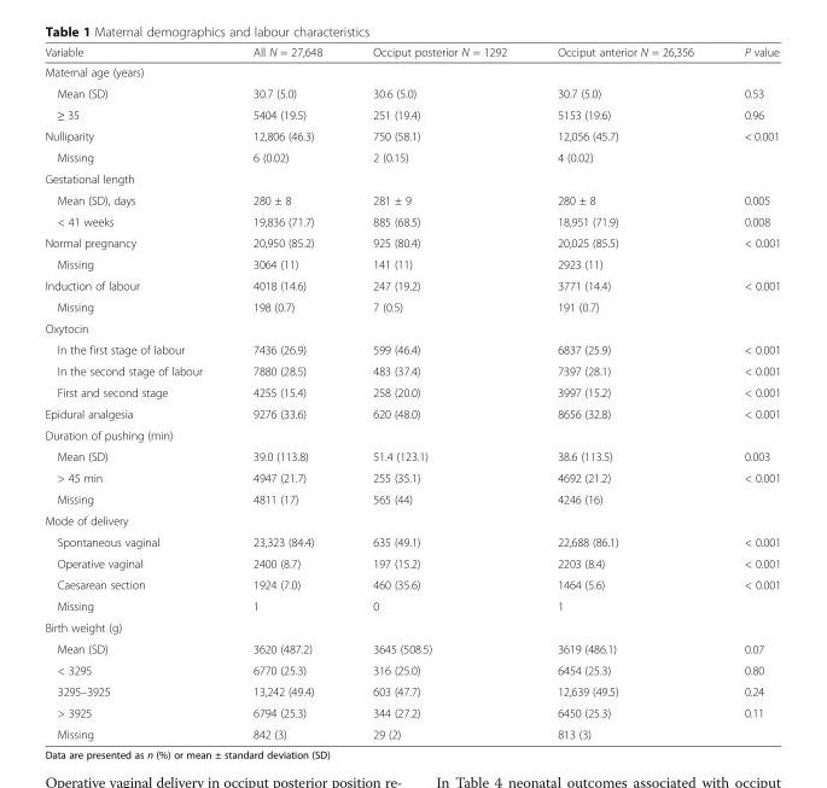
<table><thead><tr><td>Variable</td><td>All N = 27,648</td><td>Occiput posterior N = 1292</td><td>Occiput anterior N = 26,356</td><td>P value</td></tr></thead><tbody><tr><td colspan="5">Maternal age (years)</td></tr><tr><td>Mean (SD)</td><td>30.7 (5.0)</td><td>30.6 (5.0)</td><td>30.7 (5.0)</td><td>0.53</td></tr><tr><td>≥ 35</td><td>5404 (19.5)</td><td>251 (19.4)</td><td>5153 (19.6)</td><td>0.96</td></tr><tr><td>Nulliparity</td><td>12,806 (46.3)</td><td>750 (58.1)</td><td>12,056 (45.7)</td><td>&lt; 0.001</td></tr><tr><td>Missing</td><td>6 (0.02)</td><td>2 (0.15)</td><td>4 (0.02)</td><td></td></tr><tr><td colspan="5">Gestational length</td></tr><tr><td>Mean (SD), days</td><td>280 ± 8</td><td>281 ± 9</td><td>280 ± 8</td><td>0.005</td></tr><tr><td>&lt; 41 weeks</td><td>19,836 (71.7)</td><td>885 (68.5)</td><td>18,951 (71.9)</td><td>0.008</td></tr><tr><td>Normal pregnancy</td><td>20,950 (85.2)</td><td>925 (80.4)</td><td>20,025 (85.5)</td><td>&lt; 0.001</td></tr><tr><td>Missing</td><td>3064 (11)</td><td>141 (11)</td><td>2923 (11)</td><td></td></tr><tr><td>Induction of labour</td><td>4018 (14.6)</td><td>247 (19.2)</td><td>3771 (14.4)</td><td>&lt; 0.001</td></tr><tr><td>Missing</td><td>198 (0.7)</td><td>7 (0.5)</td><td>191 (0.7)</td><td></td></tr><tr><td colspan="5">Oxytocin</td></tr><tr><td>In the first stage of labour</td><td>7436 (26.9)</td><td>599 (46.4)</td><td>6837 (25.9)</td><td>&lt; 0.001</td></tr><tr><td>In the second stage of labour</td><td>7880 (28.5)</td><td>483 (37.4)</td><td>7397 (28.1)</td><td>&lt; 0.001</td></tr><tr><td>First and second stage</td><td>4255 (15.4)</td><td>258 (20.0)</td><td>3997 (15.2)</td><td>&lt; 0.001</td></tr><tr><td>Epidural analgesia</td><td>9276 (33.6)</td><td>620 (48.0)</td><td>8656 (32.8)</td><td>&lt; 0.001</td></tr><tr><td colspan="5">Duration of pushing (min)</td></tr><tr><td>Mean (SD)</td><td>39.0 (113.8)</td><td>51.4 (123.1)</td><td>38.6 (113.5)</td><td>0.003</td></tr><tr><td>&gt; 45 min</td><td>4947 (21.7)</td><td>255 (35.1)</td><td>4692 (21.2)</td><td>&lt; 0.001</td></tr><tr><td>Missing</td><td>4811 (17)</td><td>565 (44)</td><td>4246 (16)</td><td></td></tr><tr><td colspan="5">Mode of delivery</td></tr><tr><td>Spontaneous vaginal</td><td>23,323 (84.4)</td><td>635 (49.1)</td><td>22,688 (86.1)</td><td>&lt; 0.001</td></tr><tr><td>Operative vaginal</td><td>2400 (8.7)</td><td>197 (15.2)</td><td>2203 (8.4)</td><td>&lt; 0.001</td></tr><tr><td>Caesarean section</td><td>1924 (7.0)</td><td>460 (35.6)</td><td>1464 (5.6)</td><td>&lt; 0.001</td></tr><tr><td>Missing</td><td>1</td><td>0</td><td>1</td><td></td></tr><tr><td colspan="5">Birth weight (g)</td></tr><tr><td>Mean (SD)</td><td>3620 (487.2)</td><td>3645 (508.5)</td><td>3619 (486.1)</td><td>0.07</td></tr><tr><td>&lt; 3295</td><td>6770 (25.3)</td><td>316 (25.0)</td><td>6454 (25.3)</td><td>0.80</td></tr><tr><td>3295–3925</td><td>13,242 (49.4)</td><td>603 (47.7)</td><td>12,639 (49.5)</td><td>0.24</td></tr><tr><td>&gt; 3925</td><td>6794 (25.3)</td><td>344 (27.2)</td><td>6450 (25.3)</td><td>0.11</td></tr><tr><td>Missing</td><td>842 (3)</td><td>29 (2)</td><td>813 (3)</td><td></td></tr></tbody></table>